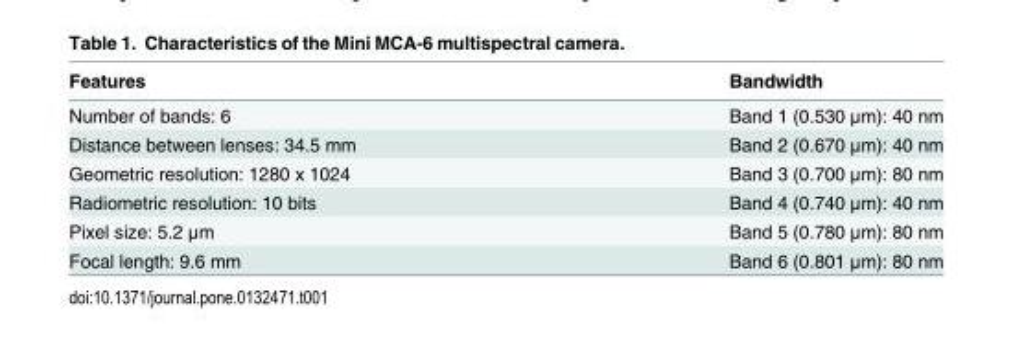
<table><thead><tr><td>Features</td><td>Bandwidth</td></tr></thead><tbody><tr><td>Number of bands: 6</td><td>Band 1 (0.530 μm): 40 nm</td></tr><tr><td>Distance between lenses: 34.5 mm</td><td>Band 2 (0.670 μm): 40 nm</td></tr><tr><td>Geometric resolution: 1280 x 1024</td><td>Band 3 (0.700 μm): 80 nm</td></tr><tr><td>Radiometric resolution: 10 bits</td><td>Band 4 (0.740 μm): 40 nm</td></tr><tr><td>Pixel size: 5.2 μm</td><td>Band 5 (0.780 μm): 80 nm</td></tr><tr><td>Focal length: 9.6 mm</td><td>Band 6 (0.801 μm): 80 nm</td></tr></tbody></table>